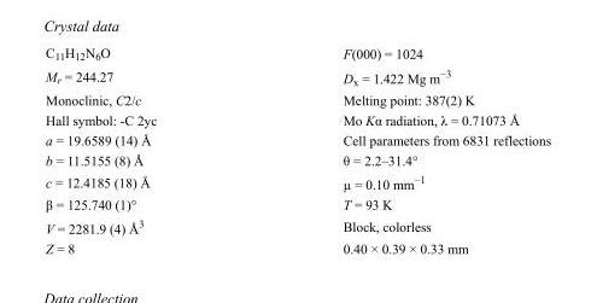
<table><tbody><tr><td>C<sub>11</sub>H<sub>12</sub>N<sub>6</sub>O</td><td>F(000) = 1024</td></tr><tr><td>M<sub>r</sub> = 244.27</td><td>D<sub>x</sub> = 1.422 Mg m<sup>−3</sup></td></tr><tr><td>Monoclinic, C2/c</td><td>Melting point: 387(2) K</td></tr><tr><td>Hall symbol: -C 2yc</td><td>Mo Kα radiation, λ = 0.71073 Å</td></tr><tr><td>a = 19.6589 (14) Å</td><td>Cell parameters from 6831 reflections</td></tr><tr><td>b = 11.5155 (8) Å</td><td>θ = 2.2–31.4°</td></tr><tr><td>c = 12.4185 (18) Å</td><td>µ = 0.10 mm<sup>−1</sup></td></tr><tr><td>β = 125.740 (1)°</td><td>T = 93 K</td></tr><tr><td>V = 2281.9 (4) Å<sup>3</sup></td><td>Block, colorless</td></tr><tr><td>Z = 8</td><td>0.40 × 0.39 × 0.33 mm</td></tr></tbody></table>